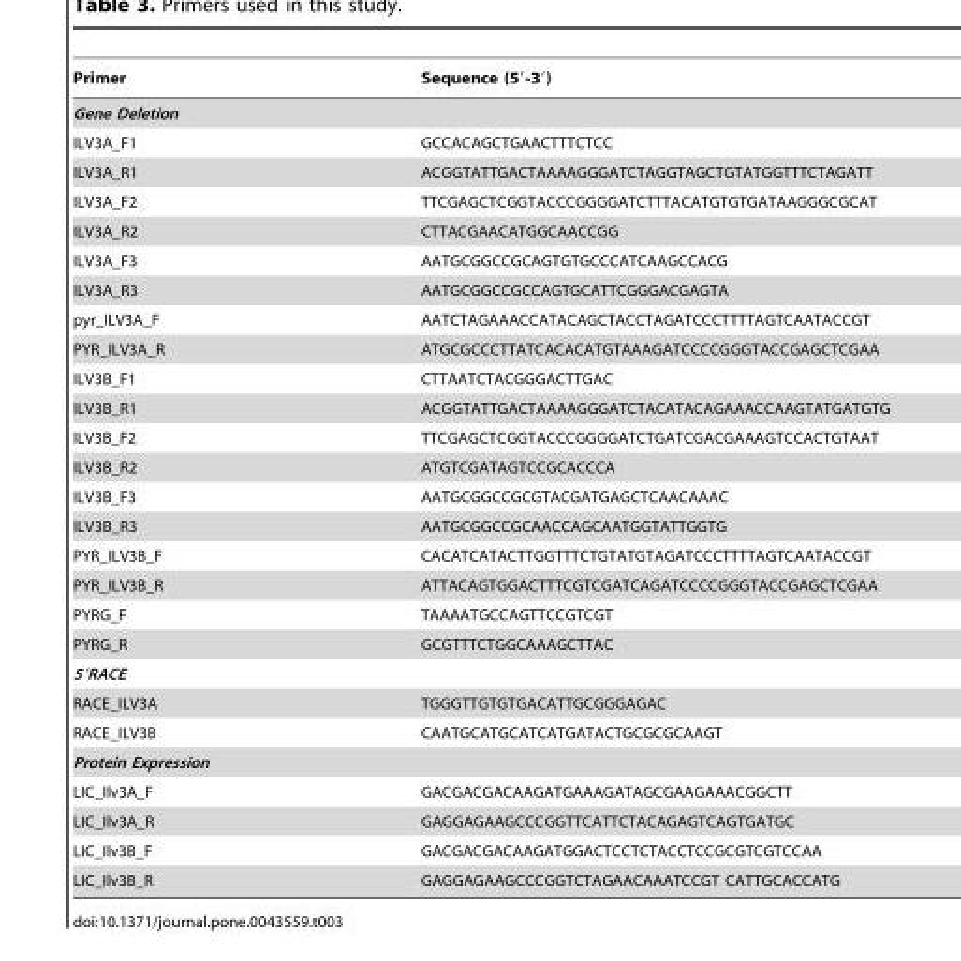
<table><thead><tr><td>Primer</td><td>Sequence (5′-3′)</td></tr></thead><tbody><tr><td colspan="2">Gene Deletion</td></tr><tr><td>ILV3A_F1</td><td>GCCACAGCTGAACTTTCTCC</td></tr><tr><td>ILV3A_R1</td><td>ACGGTATTGACTAAAAGGGATCTAGGTAGCTGTATGGTTTCTAGATT</td></tr><tr><td>ILV3A_F2</td><td>TTCGAGCTCGGTACCCGGGGATCTTTACATGTGTGATAAGGGCGCAT</td></tr><tr><td>ILV3A_R2</td><td>CTTACGAACATGGCAACCGG</td></tr><tr><td>ILV3A_F3</td><td>AATGCGGCCGCAGTGTGCCCATCAAGCCACG</td></tr><tr><td>ILV3A_R3</td><td>AATGCGGCCGCCAGTGCATTCGGGACGAGTA</td></tr><tr><td>pyr_ILV3A_F</td><td>AATCTAGAAACCATACAGCTACCTAGATCCCTTTTAGTCAATACCGT</td></tr><tr><td>PYR_ILV3A_R</td><td>ATGCGCCCTTATCACACATGTAAAGATCCCCGGGTACCGAGCTCGAA</td></tr><tr><td>ILV3B_F1</td><td>CTTAATCTACGGGACTTGAC</td></tr><tr><td>ILV3B_R1</td><td>ACGGTATTGACTAAAAGGGATCTACATACAGAAACCAAGTATGATGTG</td></tr><tr><td>ILV3B_F2</td><td>TTCGAGCTCGGTACCCGGGGATCTGATCGACGAAAGTCCACTGTAAT</td></tr><tr><td>ILV3B_R2</td><td>ATGTCGATAGTCCGCACCCA</td></tr><tr><td>ILV3B_F3</td><td>AATGCGGCCGCGTACGATGAGCTCAACAAAC</td></tr><tr><td>ILV3B_R3</td><td>AATGCGGCCGCAACCAGCAATGGTATTGGTG</td></tr><tr><td>PYR_ILV3B_F</td><td>CACATCATACTTGGTTTCTGTATGTAGATCCCTTTTAGTCAATACCGT</td></tr><tr><td>PYR_ILV3B_R</td><td>ATTACAGTGGACTTTCGTCGATCAGATCCCCGGGTACCGAGCTCGAA</td></tr><tr><td>PYRG_F</td><td>TAAAATGCCAGTTCCGTCGT</td></tr><tr><td>PYRG_R</td><td>GCGTTTCTGGCAAAGCTTAC</td></tr><tr><td colspan="2">5′RACE</td></tr><tr><td>RACE_ILV3A</td><td>TGGGTTGTGTGACATTGCGGGAGAC</td></tr><tr><td>RACE_ILV3B</td><td>CAATGCATGCATCATGATACTGCGCGCAAGT</td></tr><tr><td colspan="2">Protein Expression</td></tr><tr><td>LIC_Ilv3A_F</td><td>GACGACGACAAGATGAAAGATAGCGAAGAAACGGCTT</td></tr><tr><td>LIC_Ilv3A_R</td><td>GAGGAGAAGCCCGGTTCATTCTACAGAGTCAGTGATGC</td></tr><tr><td>LIC_Ilv3B_F</td><td>GACGACGACAAGATGGACTCCTCTACCTCCGCGTCGTCCAA</td></tr><tr><td>LIC_Ilv3B_R</td><td>GAGGAGAAGCCCGGTCTAGAACAAATCCGT CATTGCACCATG</td></tr></tbody></table>